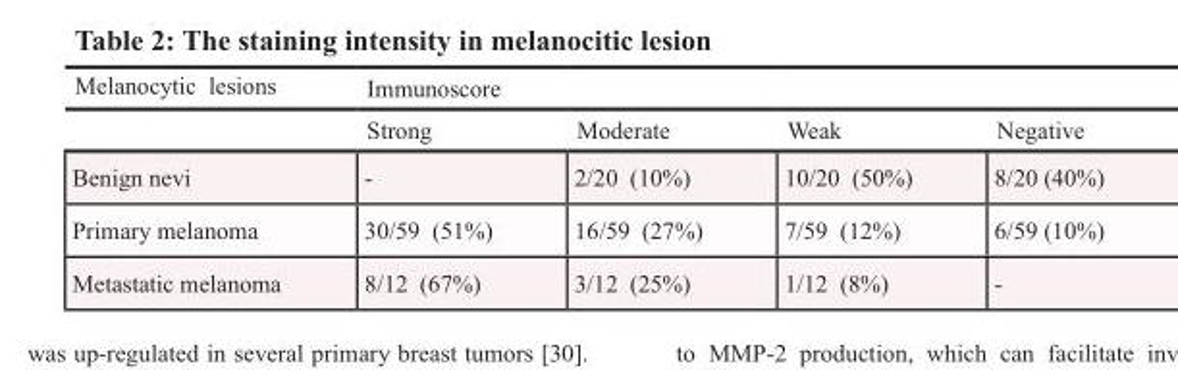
<table><thead><tr><td rowspan="2">Melanocytic lesions</td><td rowspan="2">Immunoscore Strong</td><td rowspan="2">Moderate</td><td rowspan="2">Weak</td><td rowspan="2">Negative</td></tr><tr></tr></thead><tbody><tr><td>Benign nevi</td><td>-</td><td>2/20 (10%)</td><td>10/20 (50%)</td><td>8/20 (40%)</td></tr><tr><td>Primary melanoma</td><td>30/59 (51%)</td><td>16/59 (27%)</td><td>7/59 (12%)</td><td>6/59 (10%)</td></tr><tr><td>Metastatic melanoma</td><td>8/12 (67%)</td><td>3/12 (25%)</td><td>1/12 (8%)</td><td>-</td></tr></tbody></table>